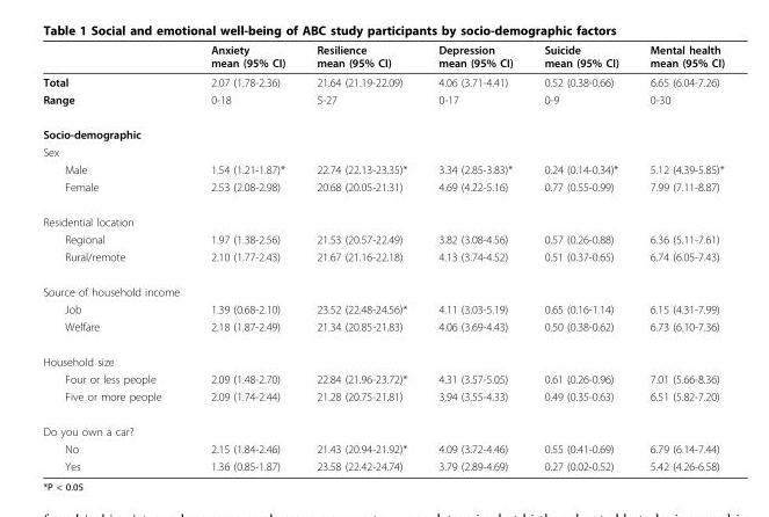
<table><thead><tr><td></td><td>Anxiety mean (95% CI)</td><td>Resilience mean (95% CI)</td><td>Depression mean (95% CI)</td><td>Suicide mean (95% CI)</td><td>Mental health mean (95% CI)</td></tr></thead><tbody><tr><td>Total</td><td>2.07 (1.78-2.36)</td><td>21.64 (21.19-22.09)</td><td>4.06 (3.71-4.41)</td><td>0.52 (0.38-0.66)</td><td>6.65 (6.04-7.26)</td></tr><tr><td>Range</td><td>0-18</td><td>5-27</td><td>0-17</td><td>0-9</td><td>0-30</td></tr><tr><td colspan="6">Socio-demographic</td></tr><tr><td colspan="6">Sex</td></tr><tr><td>Male</td><td>1.54 (1.21-1.87)*</td><td>22.74 (22.13-23.35)*</td><td>3.34 (2.85-3.83)*</td><td>0.24 (0.14-0.34)*</td><td>5.12 (4.39-5.85)*</td></tr><tr><td>Female</td><td>2.53 (2.08-2.98)</td><td>20.68 (20.05-21.31)</td><td>4.69 (4.22-5.16)</td><td>0.77 (0.55-0.99)</td><td>7.99 (7.11-8.87)</td></tr><tr><td colspan="6">Residential location</td></tr><tr><td>Regional</td><td>1.97 (1.38-2.56)</td><td>21.53 (20.57-22.49)</td><td>3.82 (3.08-4.56)</td><td>0.57 (0.26-0.88)</td><td>6.36 (5.11-7.61)</td></tr><tr><td>Rural/remote</td><td>2.10 (1.77-2.43)</td><td>21.67 (21.16-22.18)</td><td>4.13 (3.74-4.52)</td><td>0.51 (0.37-0.65)</td><td>6.74 (6.05-7.43)</td></tr><tr><td colspan="6">Source of household income</td></tr><tr><td>Job</td><td>1.39 (0.68-2.10)</td><td>23.52 (22.48-24.56)*</td><td>4.11 (3.03-5.19)</td><td>0.65 (0.16-1.14)</td><td>6.15 (4.31-7.99)</td></tr><tr><td>Welfare</td><td>2.18 (1.87-2.49)</td><td>21.34 (20.85-21.83)</td><td>4.06 (3.69-4.43)</td><td>0.50 (0.38-0.62)</td><td>6.73 (6.10-7.36)</td></tr><tr><td colspan="6">Household size</td></tr><tr><td>Four or less people</td><td>2.09 (1.48-2.70)</td><td>22.84 (21.96-23.72)*</td><td>4.31 (3.57-5.05)</td><td>0.61 (0.26-0.96)</td><td>7.01 (5.66-8.36)</td></tr><tr><td>Five or more people</td><td>2.09 (1.74-2.44)</td><td>21.28 (20.75-21.81)</td><td>3.94 (3.55-4.33)</td><td>0.49 (0.35-0.63)</td><td>6.51 (5.82-7.20)</td></tr><tr><td colspan="6">Do you own a car?</td></tr><tr><td>No</td><td>2.15 (1.84-2.46)</td><td>21.43 (20.94-21.92)*</td><td>4.09 (3.72-4.46)</td><td>0.55 (0.41-0.69)</td><td>6.79 (6.14-7.44)</td></tr><tr><td>Yes</td><td>1.36 (0.85-1.87)</td><td>23.58 (22.42-24.74)</td><td>3.79 (2.89-4.69)</td><td>0.27 (0.02-0.52)</td><td>5.42 (4.26-6.58)</td></tr></tbody></table>